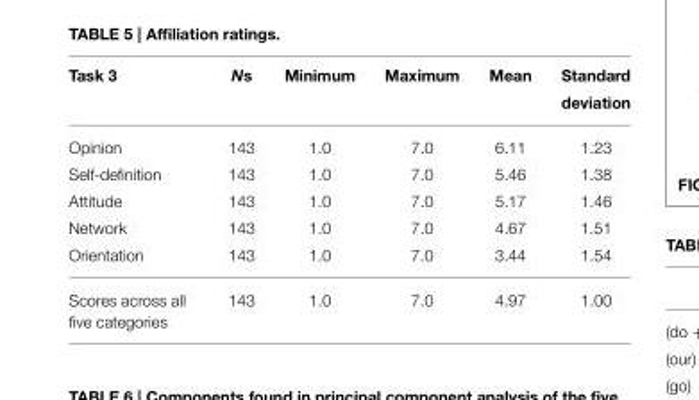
<table><thead><tr><td>Task 3</td><td>Ns</td><td>Minimum</td><td>Maximum</td><td>Mean</td><td>Standard deviation</td></tr></thead><tbody><tr><td>Opinion</td><td>143</td><td>1.0</td><td>7.0</td><td>6.11</td><td>1.23</td></tr><tr><td>Self-definition</td><td>143</td><td>1.0</td><td>7.0</td><td>5.46</td><td>1.38</td></tr><tr><td>Attitude</td><td>143</td><td>1.0</td><td>7.0</td><td>5.17</td><td>1.46</td></tr><tr><td>Network</td><td>143</td><td>1.0</td><td>7.0</td><td>4.67</td><td>1.51</td></tr><tr><td>Orientation</td><td>143</td><td>1.0</td><td>7.0</td><td>3.44</td><td>1.54</td></tr><tr><td>Scores across all five categories</td><td>143</td><td>1.0</td><td>7.0</td><td>4.97</td><td>1.00</td></tr></tbody></table>